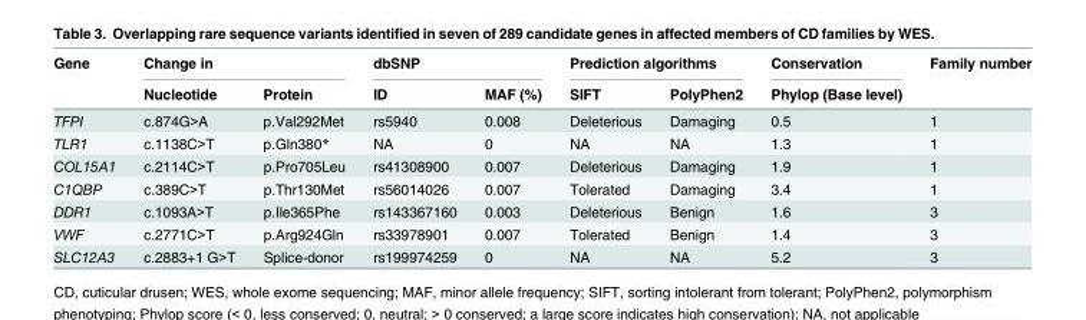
<table><thead><tr><td rowspan="2">Gene</td><td colspan="2">Change in</td><td colspan="2">dbSNP</td><td colspan="2">Prediction algorithms</td><td rowspan="2">Conservation Phylop (Base level)</td><td rowspan="2">Family number</td></tr><tr><td>Nucleotide</td><td>Protein</td><td>ID</td><td>MAF (%)</td><td>SIFT</td><td>PolyPhen2</td></tr></thead><tbody><tr><td>TFPI</td><td>c.874G&gt;A</td><td>p.Val292Met</td><td>rs5940</td><td>0.008</td><td>Deleterious</td><td>Damaging</td><td>0.5</td><td>1</td></tr><tr><td>TLR1</td><td>c.1138C&gt;T</td><td>p.Gln380*</td><td>NA</td><td>0</td><td>NA</td><td>NA</td><td>1.3</td><td>1</td></tr><tr><td>COL15A1</td><td>c.2114C&gt;T</td><td>p.Pro705Leu</td><td>rs41308900</td><td>0.007</td><td>Deleterious</td><td>Damaging</td><td>1.9</td><td>1</td></tr><tr><td>C1QBP</td><td>c.389C&gt;T</td><td>p.Thr130Met</td><td>rs56014026</td><td>0.007</td><td>Tolerated</td><td>Damaging</td><td>3.4</td><td>1</td></tr><tr><td>DDR1</td><td>c.1093A&gt;T</td><td>p.Ile365Phe</td><td>rs143367160</td><td>0.003</td><td>Deleterious</td><td>Benign</td><td>1.6</td><td>3</td></tr><tr><td>VWF</td><td>c.2771C&gt;T</td><td>p.Arg924Gln</td><td>rs33978901</td><td>0.007</td><td>Tolerated</td><td>Benign</td><td>1.4</td><td>3</td></tr><tr><td>SLC12A3</td><td>c.2883+1 G&gt;T</td><td>Splice-donor</td><td>rs199974259</td><td>0</td><td>NA</td><td>NA</td><td>5.2</td><td>3</td></tr></tbody></table>